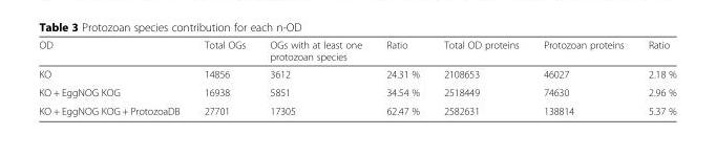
<table><thead><tr><td>OD</td><td>Total OGs</td><td>OGs with at least one protozoan species</td><td>Ratio</td><td>Total OD proteins</td><td>Protozoan proteins</td><td>Ratio</td></tr></thead><tbody><tr><td>KO</td><td>14856</td><td>3612</td><td>24.31 %</td><td>2108653</td><td>46027</td><td>2.18 %</td></tr><tr><td>KO + EggNOG KOG</td><td>16938</td><td>5851</td><td>34.54 %</td><td>2518449</td><td>74630</td><td>2.96 %</td></tr><tr><td>KO + EggNOG KOG + ProtozoaDB</td><td>27701</td><td>17305</td><td>62.47 %</td><td>2582631</td><td>138814</td><td>5.37 %</td></tr></tbody></table>